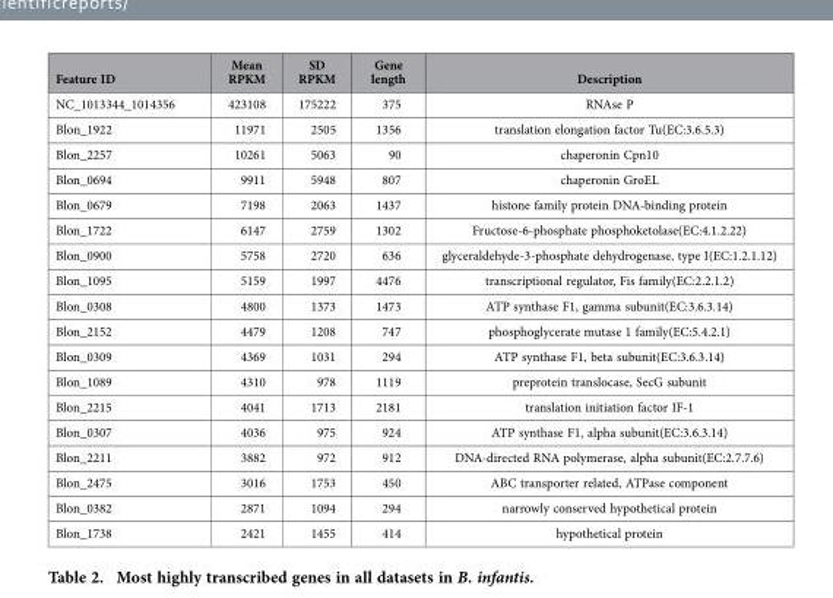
<table><thead><tr><td>Feature ID</td><td>Mean RPKM</td><td>SD RPKM</td><td>Gene length</td><td>Description</td></tr></thead><tbody><tr><td>NC_1013344_1014356</td><td>423108</td><td>175222</td><td>375</td><td>RNAse P</td></tr><tr><td>Blon_1922</td><td>11971</td><td>2505</td><td>1356</td><td>translation elongation factor Tu(EC:3.6.5.3)</td></tr><tr><td>Blon_2257</td><td>10261</td><td>5063</td><td>90</td><td>chaperonin Cpn10</td></tr><tr><td>Blon_0694</td><td>9911</td><td>5948</td><td>807</td><td>chaperonin GroEL</td></tr><tr><td>Blon_0679</td><td>7198</td><td>2063</td><td>1437</td><td>histone family protein DNA-binding protein</td></tr><tr><td>Blon_1722</td><td>6147</td><td>2759</td><td>1302</td><td>Fructose-6-phosphate phosphoketolase(EC:4.1.2.22)</td></tr><tr><td>Blon_0900</td><td>5758</td><td>2720</td><td>636</td><td>glyceraldehyde-3-phosphate dehydrogenase, type I(EC:1.2.1.12)</td></tr><tr><td>Blon_1095</td><td>5159</td><td>1997</td><td>4476</td><td>transcriptional regulator, Fis family(EC:2.2.1.2)</td></tr><tr><td>Blon_0308</td><td>4800</td><td>1373</td><td>1473</td><td>ATP synthase F1, gamma subunit(EC:3.6.3.14)</td></tr><tr><td>Blon_2152</td><td>4479</td><td>1208</td><td>747</td><td>phosphoglycerate mutase 1 family(EC:5.4.2.1)</td></tr><tr><td>Blon_0309</td><td>4369</td><td>1031</td><td>294</td><td>ATP synthase F1, beta subunit(EC:3.6.3.14)</td></tr><tr><td>Blon_1089</td><td>4310</td><td>978</td><td>1119</td><td>preprotein translocase, SecG subunit</td></tr><tr><td>Blon_2215</td><td>4041</td><td>1713</td><td>2181</td><td>translation initiation factor IF-1</td></tr><tr><td>Blon_0307</td><td>4036</td><td>975</td><td>924</td><td>ATP synthase F1, alpha subunit(EC:3.6.3.14)</td></tr><tr><td>Blon_2211</td><td>3882</td><td>972</td><td>912</td><td>DNA-directed RNA polymerase, alpha subunit(EC:2.7.7.6)</td></tr><tr><td>Blon_2475</td><td>3016</td><td>1753</td><td>450</td><td>ABC transporter related, ATPase component</td></tr><tr><td>Blon_0382</td><td>2871</td><td>1094</td><td>294</td><td>narrowly conserved hypothetical protein</td></tr><tr><td>Blon_1738</td><td>2421</td><td>1455</td><td>414</td><td>hypothetical protein</td></tr></tbody></table>